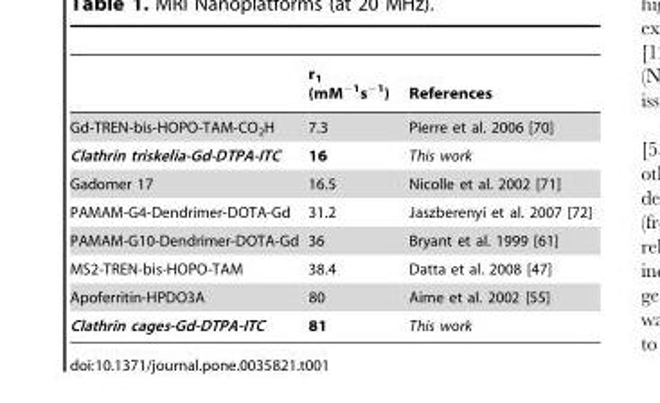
<table><thead><tr><td></td><td>r<sub>1</sub> (mM<sup>−1</sup>s<sup>−1</sup>)</td><td>References</td></tr></thead><tbody><tr><td>Gd-TREN-bis-HOPO-TAM-CO<sub>2</sub>H</td><td>7.3</td><td>Pierre et al. 2006 [70]</td></tr><tr><td>Clathrin triskelia-Gd-DTPA-ITC</td><td>16</td><td>This work</td></tr><tr><td>Gadomer 17</td><td>16.5</td><td>Nicolle et al. 2002 [71]</td></tr><tr><td>PAMAM-G4-Dendrimer-DOTA-Gd</td><td>31.2</td><td>Jaszberenyi et al. 2007 [72]</td></tr><tr><td>PAMAM-G10-Dendrimer-DOTA-Gd</td><td>36</td><td>Bryant et al. 1999 [61]</td></tr><tr><td>MS2-TREN-bis-HOPO-TAM</td><td>38.4</td><td>Datta et al. 2008 [47]</td></tr><tr><td>Apoferritin-HPDO3A</td><td>80</td><td>Aime et al. 2002 [55]</td></tr><tr><td>Clathrin cages-Gd-DTPA-ITC</td><td>81</td><td>This work</td></tr></tbody></table>